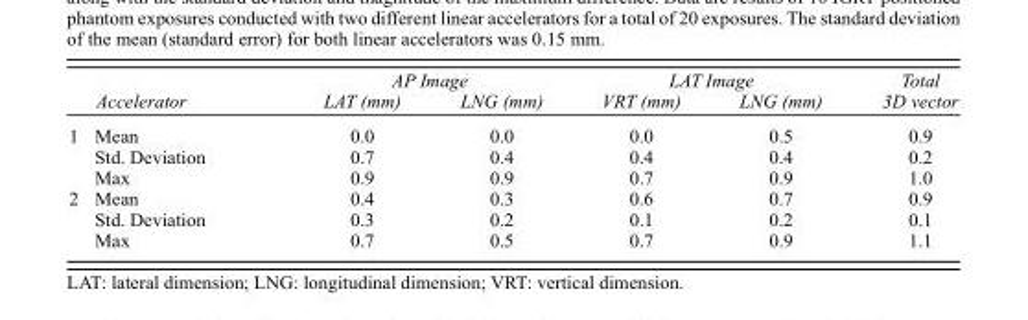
<table><thead><tr><td rowspan="2">Accelerator</td><td colspan="2">AP Image</td><td colspan="2">LAT Image</td><td rowspan="2">Total 3D vector</td></tr><tr><td>LAT (mm)</td><td>LNG (mm)</td><td>VRT (mm)</td><td>LNG (mm)</td></tr></thead><tbody><tr><td>1 Mean</td><td>0.0</td><td>0.0</td><td>0.0</td><td>0.5</td><td>0.9</td></tr><tr><td>Std. Deviation</td><td>0.7</td><td>0.4</td><td>0.4</td><td>0.4</td><td>0.2</td></tr><tr><td>Max</td><td>0.9</td><td>0.9</td><td>0.7</td><td>0.9</td><td>1.0</td></tr><tr><td>2 Mean</td><td>0.4</td><td>0.3</td><td>0.6</td><td>0.7</td><td>0.9</td></tr><tr><td>Std. Deviation</td><td>0.3</td><td>0.2</td><td>0.1</td><td>0.2</td><td>0.1</td></tr><tr><td>Max</td><td>0.7</td><td>0.5</td><td>0.7</td><td>0.9</td><td>1.1</td></tr></tbody></table>